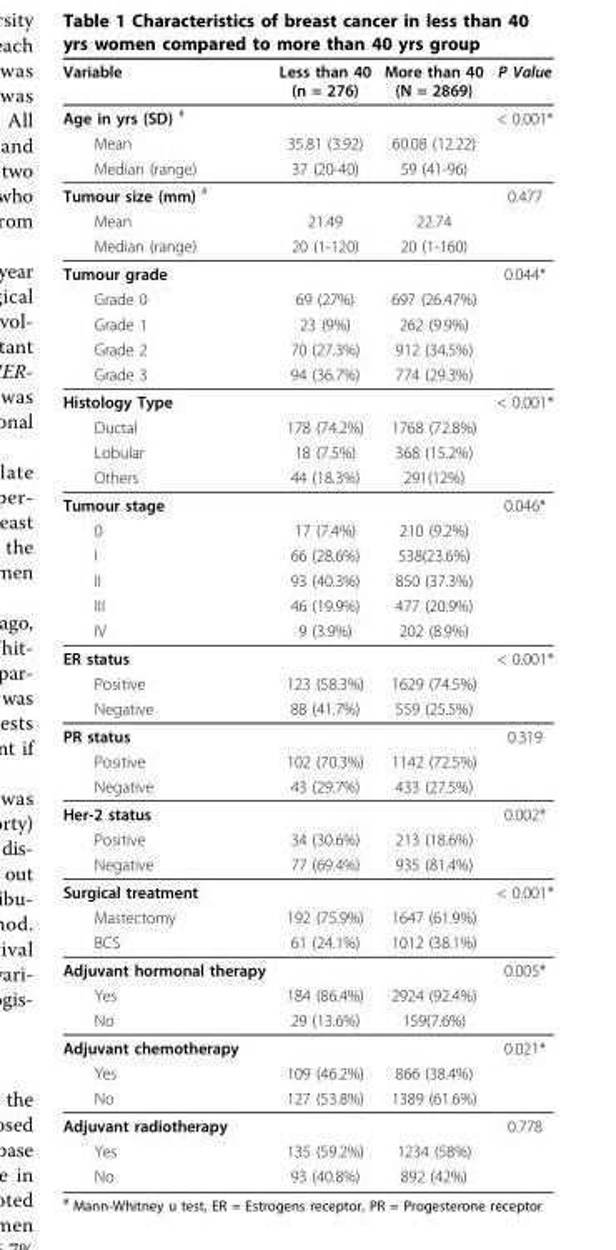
<table><thead><tr><td>Variable</td><td>Less than 40 (n = 276)</td><td>More than 40 (N = 2869)</td><td>P Value</td></tr></thead><tbody><tr><td>Age in yrs (SD) <sup>#</sup></td><td></td><td></td><td>&lt; 0.001*</td></tr><tr><td>Mean</td><td>35.81 (3.92)</td><td>60.08 (12.22)</td><td></td></tr><tr><td>Median (range)</td><td>37 (20-40)</td><td>59 (41-96)</td><td></td></tr><tr><td>Tumour size (mm) <sup>#</sup></td><td></td><td></td><td>0.477</td></tr><tr><td>Mean</td><td>21.49</td><td>22.74</td><td></td></tr><tr><td>Median (range)</td><td>20 (1-120)</td><td>20 (1-160)</td><td></td></tr><tr><td>Tumour grade</td><td></td><td></td><td>0.044*</td></tr><tr><td>Grade 0</td><td>69 (27%)</td><td>697 (26.47%)</td><td></td></tr><tr><td>Grade 1</td><td>23 (9%)</td><td>262 (9.9%)</td><td></td></tr><tr><td>Grade 2</td><td>70 (27.3%)</td><td>912 (34.5%)</td><td></td></tr><tr><td>Grade 3</td><td>94 (36.7%)</td><td>774 (29.3%)</td><td></td></tr><tr><td>Histology Type</td><td></td><td></td><td>&lt; 0.001*</td></tr><tr><td>Ductal</td><td>178 (74.2%)</td><td>1768 (72.8%)</td><td></td></tr><tr><td>Lobular</td><td>18 (7.5%)</td><td>368 (15.2%)</td><td></td></tr><tr><td>Others</td><td>44 (18.3%)</td><td>291(12%)</td><td></td></tr><tr><td>Tumour stage</td><td></td><td></td><td>0.046*</td></tr><tr><td>0</td><td>17 (7.4%)</td><td>210 (9.2%)</td><td></td></tr><tr><td>I</td><td>66 (28.6%)</td><td>538(23.6%)</td><td></td></tr><tr><td>II</td><td>93 (40.3%)</td><td>850 (37.3%)</td><td></td></tr><tr><td>III</td><td>46 (19.9%)</td><td>477 (20.9%)</td><td></td></tr><tr><td>IV</td><td>9 (3.9%)</td><td>202 (8.9%)</td><td></td></tr><tr><td>ER status</td><td></td><td></td><td>&lt; 0.001*</td></tr><tr><td>Positive</td><td>123 (58.3%)</td><td>1629 (74.5%)</td><td></td></tr><tr><td>Negative</td><td>88 (41.7%)</td><td>559 (25.5%)</td><td></td></tr><tr><td>PR status</td><td></td><td></td><td>0.319</td></tr><tr><td>Positive</td><td>102 (70.3%)</td><td>1142 (72.5%)</td><td></td></tr><tr><td>Negative</td><td>43 (29.7%)</td><td>433 (27.5%)</td><td></td></tr><tr><td>Her-2 status</td><td></td><td></td><td>0.002*</td></tr><tr><td>Positive</td><td>34 (30.6%)</td><td>213 (18.6%)</td><td></td></tr><tr><td>Negative</td><td>77 (69.4%)</td><td>935 (81.4%)</td><td></td></tr><tr><td>Surgical treatment</td><td></td><td></td><td>&lt; 0.001*</td></tr><tr><td>Mastectomy</td><td>192 (75.9%)</td><td>1647 (61.9%)</td><td></td></tr><tr><td>BCS</td><td>61 (24.1%)</td><td>1012 (38.1%)</td><td></td></tr><tr><td>Adjuvant hormonal therapy</td><td></td><td></td><td>0.005*</td></tr><tr><td>Yes</td><td>184 (86.4%)</td><td>2924 (92.4%)</td><td></td></tr><tr><td>No</td><td>29 (13.6%)</td><td>159(7.6%)</td><td></td></tr><tr><td>Adjuvant chemotherapy</td><td></td><td></td><td>0.021*</td></tr><tr><td>Yes</td><td>109 (46.2%)</td><td>866 (38.4%)</td><td></td></tr><tr><td>No</td><td>127 (53.8%)</td><td>1389 (61.6%)</td><td></td></tr><tr><td>Adjuvant radiotherapy</td><td></td><td></td><td>0.778</td></tr><tr><td>Yes</td><td>135 (59.2%)</td><td>1234 (58%)</td><td></td></tr><tr><td>No</td><td>93 (40.8%)</td><td>892 (42%)</td><td></td></tr></tbody></table>